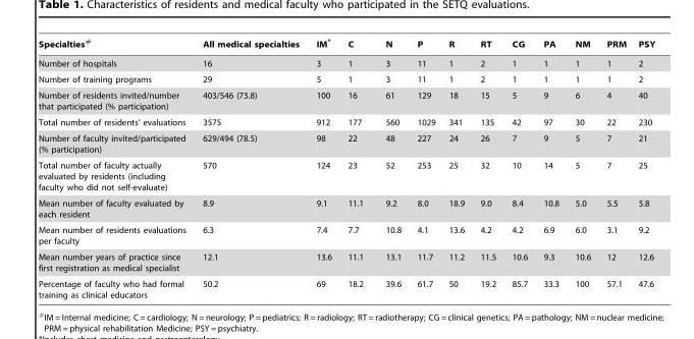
<table><thead><tr><td>Specialties#</td><td>All medical specialties</td><td>IM*</td><td>C</td><td>N</td><td>P</td><td>R</td><td>RT</td><td>CG</td><td>PA</td><td>NM</td><td>PRM</td><td>PSY</td></tr></thead><tbody><tr><td>Number of hospitals</td><td>16</td><td>3</td><td>1</td><td>3</td><td>11</td><td>1</td><td>2</td><td>1</td><td>1</td><td>1</td><td>1</td><td>2</td></tr><tr><td>Number of training programs</td><td>29</td><td>5</td><td>1</td><td>3</td><td>11</td><td>1</td><td>2</td><td>1</td><td>1</td><td>1</td><td>1</td><td>2</td></tr><tr><td>Number of residents invited/number that participated (% participation)</td><td>403/546 (73.8)</td><td>100</td><td>16</td><td>61</td><td>129</td><td>18</td><td>15</td><td>5</td><td>9</td><td>6</td><td>4</td><td>40</td></tr><tr><td>Total number of residents’ evaluations</td><td>3575</td><td>912</td><td>177</td><td>560</td><td>1029</td><td>341</td><td>135</td><td>42</td><td>97</td><td>30</td><td>22</td><td>230</td></tr><tr><td>Number of faculty invited/participated (% participation)</td><td>629/494 (78.5)</td><td>98</td><td>22</td><td>48</td><td>227</td><td>24</td><td>26</td><td>7</td><td>9</td><td>5</td><td>7</td><td>21</td></tr><tr><td>Total number of faculty actually evaluated by residents (including faculty who did not self-evaluate)</td><td>570</td><td>124</td><td>23</td><td>52</td><td>253</td><td>25</td><td>32</td><td>10</td><td>14</td><td>5</td><td>7</td><td>25</td></tr><tr><td>Mean number of faculty evaluated by each resident</td><td>8.9</td><td>9.1</td><td>11.1</td><td>9.2</td><td>8.0</td><td>18.9</td><td>9.0</td><td>8.4</td><td>10.8</td><td>5.0</td><td>5.5</td><td>5.8</td></tr><tr><td>Mean number of residents evaluations per faculty</td><td>6.3</td><td>7.4</td><td>7.7</td><td>10.8</td><td>4.1</td><td>13.6</td><td>4.2</td><td>4.2</td><td>6.9</td><td>6.0</td><td>3.1</td><td>9.2</td></tr><tr><td>Mean number years of practice since first registration as medical specialist</td><td>12.1</td><td>13.6</td><td>11.1</td><td>13.1</td><td>11.7</td><td>11.2</td><td>11.5</td><td>10.6</td><td>9.3</td><td>10.6</td><td>12</td><td>12.6</td></tr><tr><td>Percentage of faculty who had formal training as clinical educators</td><td>50.2</td><td>69</td><td>18.2</td><td>39.6</td><td>61.7</td><td>50</td><td>19.2</td><td>85.7</td><td>33.3</td><td>100</td><td>57.1</td><td>47.6</td></tr></tbody></table>